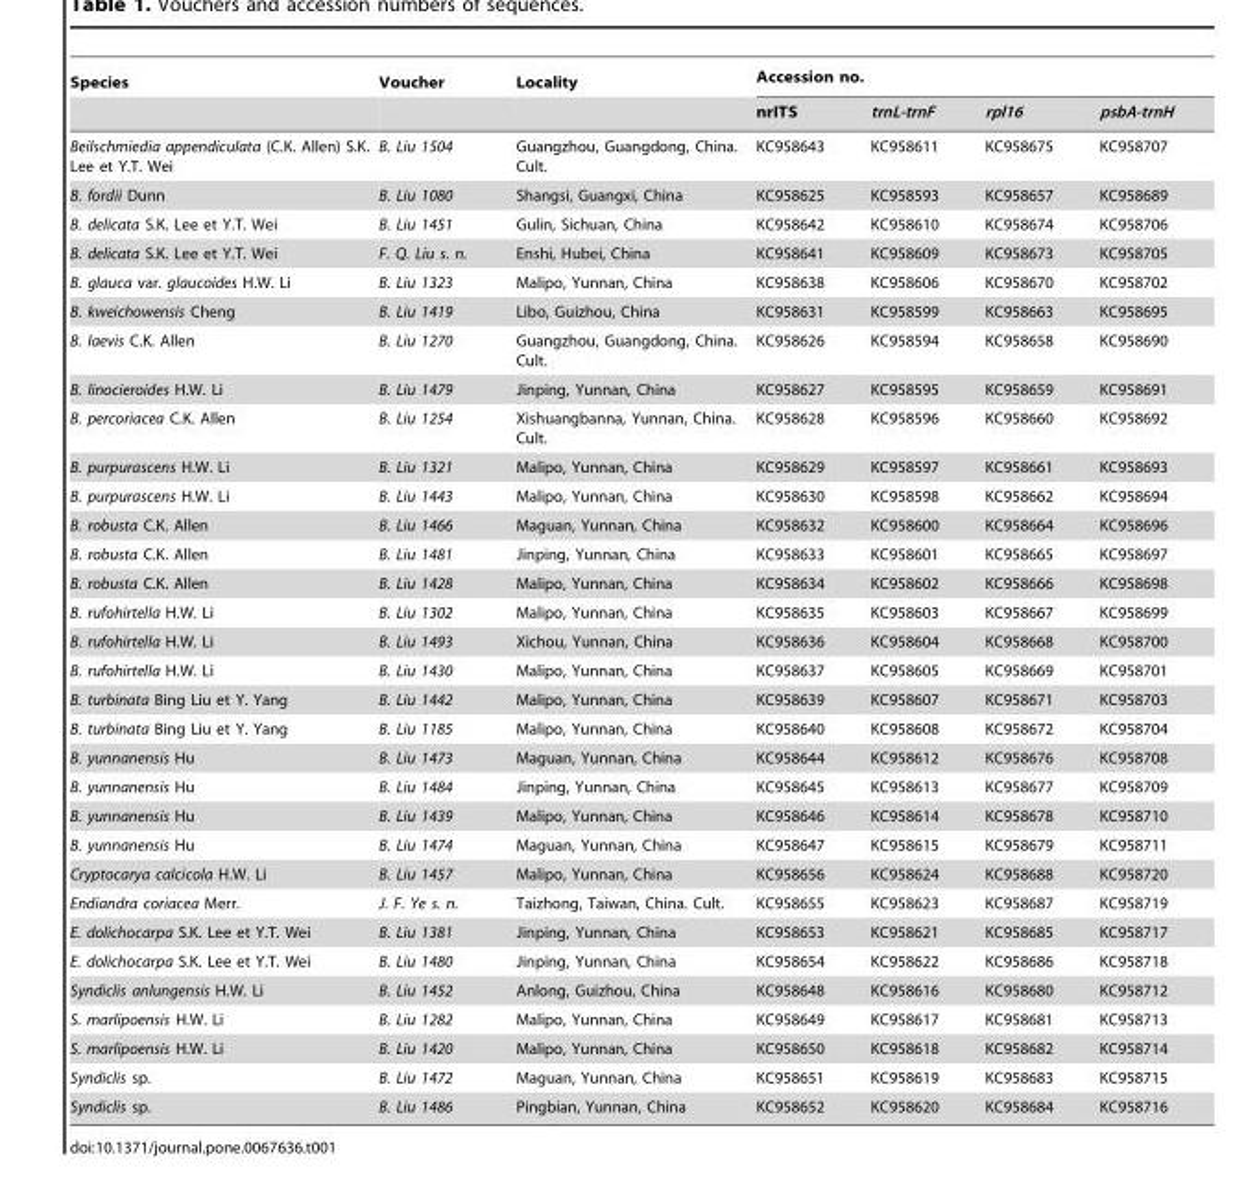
<table><thead><tr><td rowspan="2">Species</td><td rowspan="2">Voucher</td><td rowspan="2">Locality</td><td colspan="4">Accession no.</td></tr><tr><td>nrITS</td><td>trnL-trnF</td><td>rpl16</td><td>psbA-trnH</td></tr></thead><tbody><tr><td>Beilschmiedia appendiculata (C.K. Allen) S.K. Lee et Y.T. Wei</td><td>B. Liu 1504</td><td>Guangzhou, Guangdong, China. Cult.</td><td>KC958643</td><td>KC958611</td><td>KC958675</td><td>KC958707</td></tr><tr><td>B. fordii Dunn</td><td>B. Liu 1080</td><td>Shangsi, Guangxi, China</td><td>KC958625</td><td>KC958593</td><td>KC958657</td><td>KC958689</td></tr><tr><td>B. delicata S.K. Lee et Y.T. Wei</td><td>B. Liu 1451</td><td>Gulin, Sichuan, China</td><td>KC958642</td><td>KC958610</td><td>KC958674</td><td>KC958706</td></tr><tr><td>B. delicata S.K. Lee et Y.T. Wei</td><td>F. Q. Liu s. n.</td><td>Enshi, Hubei, China</td><td>KC958641</td><td>KC958609</td><td>KC958673</td><td>KC958705</td></tr><tr><td>B. glauca var. glaucoides H.W. Li</td><td>B. Liu 1323</td><td>Malipo, Yunnan, China</td><td>KC958638</td><td>KC958606</td><td>KC958670</td><td>KC958702</td></tr><tr><td>B. kweichowensis Cheng</td><td>B. Liu 1419</td><td>Libo, Guizhou, China</td><td>KC958631</td><td>KC958599</td><td>KC958663</td><td>KC958695</td></tr><tr><td>B. laevis C.K. Allen</td><td>B. Liu 1270</td><td>Guangzhou, Guangdong, China. Cult.</td><td>KC958626</td><td>KC958594</td><td>KC958658</td><td>KC958690</td></tr><tr><td>B. linocieroides H.W. Li</td><td>B. Liu 1479</td><td>Jinping, Yunnan, China</td><td>KC958627</td><td>KC958595</td><td>KC958659</td><td>KC958691</td></tr><tr><td>B. percoriacea C.K. Allen</td><td>B. Liu 1254</td><td>Xishuangbanna, Yunnan, China. Cult.</td><td>KC958628</td><td>KC958596</td><td>KC958660</td><td>KC958692</td></tr><tr><td>B. purpurascens H.W. Li</td><td>B. Liu 1321</td><td>Malipo, Yunnan, China</td><td>KC958629</td><td>KC958597</td><td>KC958661</td><td>KC958693</td></tr><tr><td>B. purpurascens H.W. Li</td><td>B. Liu 1443</td><td>Malipo, Yunnan, China</td><td>KC958630</td><td>KC958598</td><td>KC958662</td><td>KC958694</td></tr><tr><td>B. robusta C.K. Allen</td><td>B. Liu 1466</td><td>Maguan, Yunnan, China</td><td>KC958632</td><td>KC958600</td><td>KC958664</td><td>KC958696</td></tr><tr><td>B. robusta C.K. Allen</td><td>B. Liu 1481</td><td>Jinping, Yunnan, China</td><td>KC958633</td><td>KC958601</td><td>KC958665</td><td>KC958697</td></tr><tr><td>B. robusta C.K. Allen</td><td>B. Liu 1428</td><td>Malipo, Yunnan, China</td><td>KC958634</td><td>KC958602</td><td>KC958666</td><td>KC958698</td></tr><tr><td>B. rufohirtella H.W. Li</td><td>B. Liu 1302</td><td>Malipo, Yunnan, China</td><td>KC958635</td><td>KC958603</td><td>KC958667</td><td>KC958699</td></tr><tr><td>B. rufohirtella H.W. Li</td><td>B. Liu 1493</td><td>Xichou, Yunnan, China</td><td>KC958636</td><td>KC958604</td><td>KC958668</td><td>KC958700</td></tr><tr><td>B. rufohirtella H.W. Li</td><td>B. Liu 1430</td><td>Malipo, Yunnan, China</td><td>KC958637</td><td>KC958605</td><td>KC958669</td><td>KC958701</td></tr><tr><td>B. turbinata Bing Liu et Y. Yang</td><td>B. Liu 1442</td><td>Malipo, Yunnan, China</td><td>KC958639</td><td>KC958607</td><td>KC958671</td><td>KC958703</td></tr><tr><td>B. turbinata Bing Liu et Y. Yang</td><td>B. Liu 1185</td><td>Malipo, Yunnan, China</td><td>KC958640</td><td>KC958608</td><td>KC958672</td><td>KC958704</td></tr><tr><td>B. yunnanensis Hu</td><td>B. Liu 1473</td><td>Maguan, Yunnan, China</td><td>KC958644</td><td>KC958612</td><td>KC958676</td><td>KC958708</td></tr><tr><td>B. yunnanensis Hu</td><td>B. Liu 1484</td><td>Jinping, Yunnan, China</td><td>KC958645</td><td>KC958613</td><td>KC958677</td><td>KC958709</td></tr><tr><td>B. yunnanensis Hu</td><td>B. Liu 1439</td><td>Malipo, Yunnan, China</td><td>KC958646</td><td>KC958614</td><td>KC958678</td><td>KC958710</td></tr><tr><td>B. yunnanensis Hu</td><td>B. Liu 1474</td><td>Maguan, Yunnan, China</td><td>KC958647</td><td>KC958615</td><td>KC958679</td><td>KC958711</td></tr><tr><td>Cryptocarya calcicola H.W. Li</td><td>B. Liu 1457</td><td>Malipo, Yunnan, China</td><td>KC958656</td><td>KC958624</td><td>KC958688</td><td>KC958720</td></tr><tr><td>Endiandra coriacea Merr.</td><td>J. F. Ye s. n.</td><td>Taizhong, Taiwan, China. Cult.</td><td>KC958655</td><td>KC958623</td><td>KC958687</td><td>KC958719</td></tr><tr><td>E. dolichocarpa S.K. Lee et Y.T. Wei</td><td>B. Liu 1381</td><td>Jinping, Yunnan, China</td><td>KC958653</td><td>KC958621</td><td>KC958685</td><td>KC958717</td></tr><tr><td>E. dolichocarpa S.K. Lee et Y.T. Wei</td><td>B. Liu 1480</td><td>Jinping, Yunnan, China</td><td>KC958654</td><td>KC958622</td><td>KC958686</td><td>KC958718</td></tr><tr><td>Syndiclis anlungensis H.W. Li</td><td>B. Liu 1452</td><td>Anlong, Guizhou, China</td><td>KC958648</td><td>KC958616</td><td>KC958680</td><td>KC958712</td></tr><tr><td>S. marlipoensis H.W. Li</td><td>B. Liu 1282</td><td>Malipo, Yunnan, China</td><td>KC958649</td><td>KC958617</td><td>KC958681</td><td>KC958713</td></tr><tr><td>S. marlipoensis H.W. Li</td><td>B. Liu 1420</td><td>Malipo, Yunnan, China</td><td>KC958650</td><td>KC958618</td><td>KC958682</td><td>KC958714</td></tr><tr><td>Syndiclis sp.</td><td>B. Liu 1472</td><td>Maguan, Yunnan, China</td><td>KC958651</td><td>KC958619</td><td>KC958683</td><td>KC958715</td></tr><tr><td>Syndiclis sp.</td><td>B. Liu 1486</td><td>Pingbian, Yunnan, China</td><td>KC958652</td><td>KC958620</td><td>KC958684</td><td>KC958716</td></tr></tbody></table>